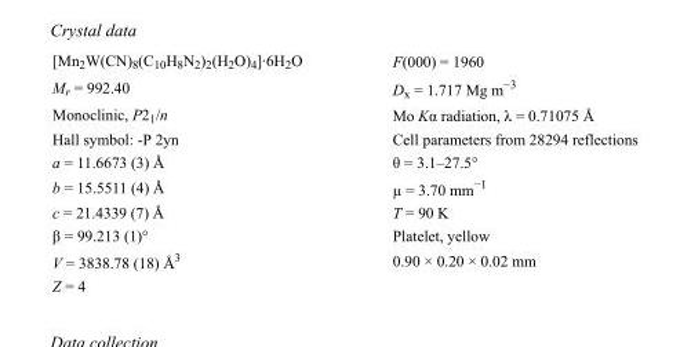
<table><tbody><tr><td>[Mn<sub>2</sub>W(CN)<sub>8</sub>(C<sub>10</sub>H<sub>8</sub>N<sub>2</sub>)<sub>2</sub>(H<sub>2</sub>O)<sub>4</sub>]·6H<sub>2</sub>O</td><td>F(000) = 1960</td></tr><tr><td>M<sub>r</sub> = 992.40</td><td>D<sub>x</sub> = 1.717 Mg m<sup>−3</sup></td></tr><tr><td>Monoclinic, P2<sub>1</sub>/n</td><td>Mo Kα radiation, λ = 0.71075 Å</td></tr><tr><td>Hall symbol: -P 2yn</td><td>Cell parameters from 28294 reflections</td></tr><tr><td>a = 11.6673 (3) Å</td><td>θ = 3.1–27.5°</td></tr><tr><td>b = 15.5511 (4) Å</td><td>µ = 3.70 mm<sup>−1</sup></td></tr><tr><td>c = 21.4339 (7) Å</td><td>T = 90 K</td></tr><tr><td>β = 99.213 (1)°</td><td>Platelet, yellow</td></tr><tr><td>V = 3838.78 (18) Å<sup>3</sup></td><td>0.90 × 0.20 × 0.02 mm</td></tr><tr><td>Z = 4</td><td></td></tr></tbody></table>